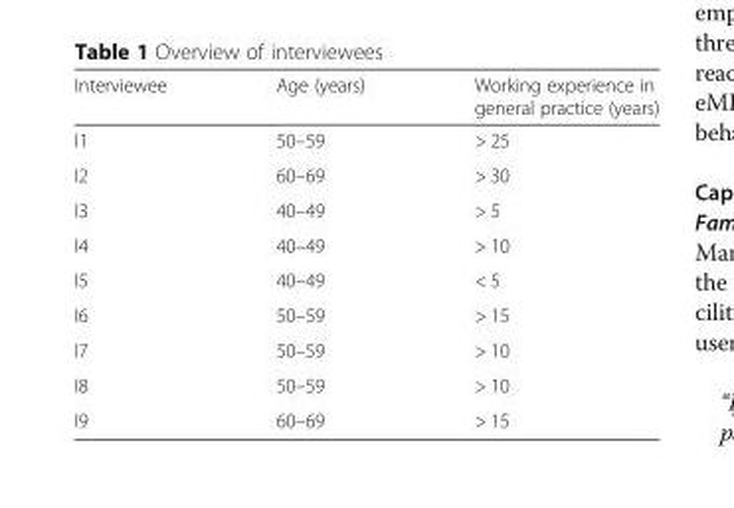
<table><thead><tr><td>Interviewee</td><td>Age (years)</td><td>Working experience in general practice (years)</td></tr></thead><tbody><tr><td>I1</td><td>50–59</td><td>&gt; 25</td></tr><tr><td>I2</td><td>60–69</td><td>&gt; 30</td></tr><tr><td>I3</td><td>40–49</td><td>&gt; 5</td></tr><tr><td>I4</td><td>40–49</td><td>&gt; 10</td></tr><tr><td>I5</td><td>40–49</td><td>&lt; 5</td></tr><tr><td>I6</td><td>50–59</td><td>&gt; 15</td></tr><tr><td>I7</td><td>50–59</td><td>&gt; 10</td></tr><tr><td>I8</td><td>50–59</td><td>&gt; 10</td></tr><tr><td>I9</td><td>60–69</td><td>&gt; 15</td></tr></tbody></table>